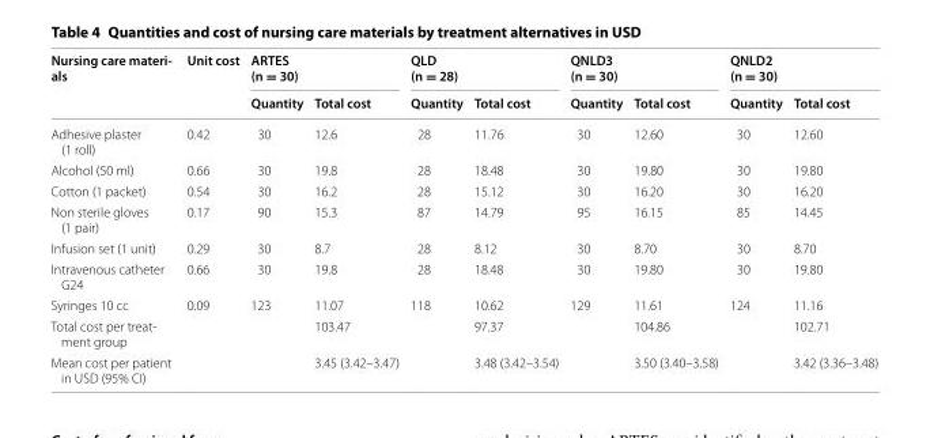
<table><thead><tr><td rowspan="2">Nursing care materi- als</td><td rowspan="2">Unit cost</td><td colspan="2">ARTES (n = 30)</td><td colspan="2">QLD (n = 28)</td><td colspan="2">QNLD3 (n = 30)</td><td colspan="2">QNLD2 (n = 30)</td></tr><tr><td>Quantity</td><td>Total cost</td><td>Quantity</td><td>Total cost</td><td>Quantity</td><td>Total cost</td><td>Quantity</td><td>Total cost</td></tr></thead><tbody><tr><td>Adhesive plaster (1 roll)</td><td>0.42</td><td>30</td><td>12.6</td><td>28</td><td>11.76</td><td>30</td><td>12.60</td><td>30</td><td>12.60</td></tr><tr><td>Alcohol (50 ml)</td><td>0.66</td><td>30</td><td>19.8</td><td>28</td><td>18.48</td><td>30</td><td>19.80</td><td>30</td><td>19.80</td></tr><tr><td>Cotton (1 packet)</td><td>0.54</td><td>30</td><td>16.2</td><td>28</td><td>15.12</td><td>30</td><td>16.20</td><td>30</td><td>16.20</td></tr><tr><td>Non sterile gloves (1 pair)</td><td>0.17</td><td>90</td><td>15.3</td><td>87</td><td>14.79</td><td>95</td><td>16.15</td><td>85</td><td>14.45</td></tr><tr><td>Infusion set (1 unit)</td><td>0.29</td><td>30</td><td>8.7</td><td>28</td><td>8.12</td><td>30</td><td>8.70</td><td>30</td><td>8.70</td></tr><tr><td>Intravenous catheter G24</td><td>0.66</td><td>30</td><td>19.8</td><td>28</td><td>18.48</td><td>30</td><td>19.80</td><td>30</td><td>19.80</td></tr><tr><td>Syringes 10 cc</td><td>0.09</td><td>123</td><td>11.07</td><td>118</td><td>10.62</td><td>129</td><td>11.61</td><td>124</td><td>11.16</td></tr><tr><td>Total cost per treat- ment group</td><td></td><td></td><td>103.47</td><td></td><td>97.37</td><td></td><td>104.86</td><td></td><td>102.71</td></tr><tr><td>Mean cost per patient in USD (95% CI)</td><td></td><td></td><td>3.45 (3.42–3.47)</td><td></td><td>3.48 (3.42–3.54)</td><td></td><td>3.50 (3.40–3.58)</td><td></td><td>3.42 (3.36–3.48)</td></tr></tbody></table>